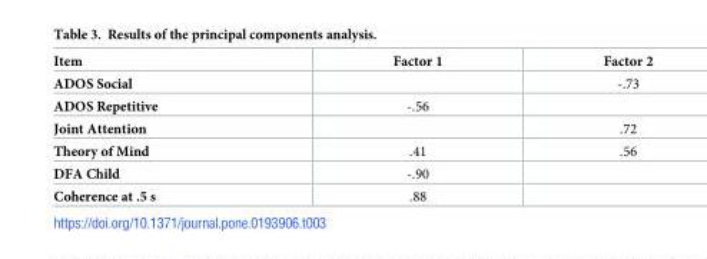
<table><thead><tr><td>Item</td><td>Factor 1</td><td>Factor 2</td></tr></thead><tbody><tr><td>ADOS Social</td><td></td><td>-.73</td></tr><tr><td>ADOS Repetitive</td><td>-.56</td><td></td></tr><tr><td>Joint Attention</td><td></td><td>.72</td></tr><tr><td>Theory of Mind</td><td>.41</td><td>.56</td></tr><tr><td>DFA Child</td><td>-.90</td><td></td></tr><tr><td>Coherence at .5 s</td><td>.88</td><td></td></tr></tbody></table>